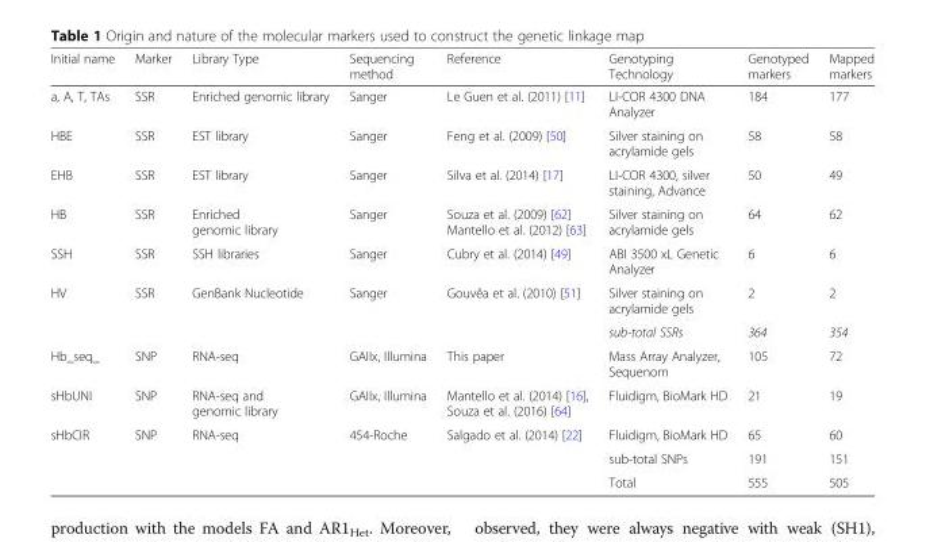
<table><thead><tr><td>Initial name</td><td>Marker</td><td>Library Type</td><td>Sequencing method</td><td>Reference</td><td>Genotyping Technology</td><td>Genotyped markers</td><td>Mapped markers</td></tr></thead><tbody><tr><td>a, A, T, TAs</td><td>SSR</td><td>Enriched genomic library</td><td>Sanger</td><td>Le Guen et al. (2011) [11]</td><td>LI-COR 4300 DNA Analyzer</td><td>184</td><td>177</td></tr><tr><td>HBE</td><td>SSR</td><td>EST library</td><td>Sanger</td><td>Feng et al. (2009) [50]</td><td>Silver staining on acrylamide gels</td><td>58</td><td>58</td></tr><tr><td>EHB</td><td>SSR</td><td>EST library</td><td>Sanger</td><td>Silva et al. (2014) [17]</td><td>LI-COR 4300, silver staining, Advance</td><td>50</td><td>49</td></tr><tr><td>HB</td><td>SSR</td><td>Enriched genomic library</td><td>Sanger</td><td>Souza et al. (2009) [62] Mantello et al. (2012) [63]</td><td>Silver staining on acrylamide gels</td><td>64</td><td>62</td></tr><tr><td>SSH</td><td>SSR</td><td>SSH libraries</td><td>Sanger</td><td>Cubry et al. (2014) [49]</td><td>ABI 3500 xL Genetic Analyzer</td><td>6</td><td>6</td></tr><tr><td rowspan="2">HV</td><td>SSR</td><td>GenBank Nucleotide</td><td>Sanger</td><td>Gouvêa et al. (2010) [51]</td><td>Silver staining on acrylamide gels</td><td>2</td><td>2</td></tr><tr><td></td><td></td><td></td><td></td><td>sub-total SSRs</td><td>364</td><td>354</td></tr><tr><td>Hb_seq_</td><td>SNP</td><td>RNA-seq</td><td>GAIIx, Illumina</td><td>This paper</td><td>Mass Array Analyzer, Sequenom</td><td>105</td><td>72</td></tr><tr><td>sHbUNI</td><td>SNP</td><td>RNA-seq and genomic library</td><td>GAIIx, Illumina</td><td>Mantello et al. (2014) [16], Souza et al. (2016) [64]</td><td>Fluidigm, BioMark HD</td><td>21</td><td>19</td></tr><tr><td rowspan="3">sHbCIR</td><td>SNP</td><td>RNA-seq</td><td>454-Roche</td><td>Salgado et al. (2014) [22]</td><td>Fluidigm, BioMark HD</td><td>65</td><td>60</td></tr><tr><td></td><td></td><td></td><td></td><td>sub-total SNPs</td><td>191</td><td>151</td></tr><tr><td></td><td></td><td></td><td></td><td>Total</td><td>555</td><td>505</td></tr></tbody></table>